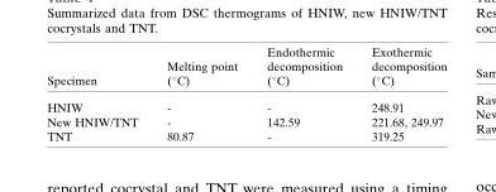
<table><thead><tr><td>Specimen</td><td>Melting point (°C)</td><td>Endothermic decomposition (°C)</td><td>Exothermic decomposition (°C)</td></tr></thead><tbody><tr><td>HNIW</td><td>-</td><td>-</td><td>248.91</td></tr><tr><td>New HNIW/TNT</td><td>-</td><td>142.59</td><td>221.68, 249.97</td></tr><tr><td>TNT</td><td>80.87</td><td>-</td><td>319.25</td></tr></tbody></table>